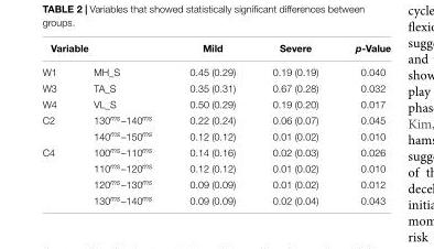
<table><thead><tr><td colspan="2">Variable</td><td rowspan="2">Mild 0.45 (0.29)</td><td rowspan="2">Severe 0.19 (0.19)</td><td rowspan="2">p-Value 0.040</td></tr><tr><td>W1</td><td>MH_S</td></tr></thead><tbody><tr><td>W3</td><td>TA_S</td><td>0.35 (0.31)</td><td>0.67 (0.28)</td><td>0.032</td></tr><tr><td>W4</td><td>VL_S</td><td>0.50 (0.29)</td><td>0.19 (0.20)</td><td>0.017</td></tr><tr><td rowspan="2">C2</td><td>130<sup>ms</sup>–140<sup>ms</sup></td><td>0.22 (0.24)</td><td>0.06 (0.07)</td><td>0.045</td></tr><tr><td>140<sup>ms</sup>–150<sup>ms</sup></td><td>0.12 (0.12)</td><td>0.01 (0.02)</td><td>0.010</td></tr><tr><td rowspan="4">C4</td><td>100<sup>ms</sup>–110<sup>ms</sup></td><td>0.14 (0.16)</td><td>0.02 (0.03)</td><td>0.026</td></tr><tr><td>110<sup>ms</sup>–120<sup>ms</sup></td><td>0.12 (0.12)</td><td>0.01 (0.02)</td><td>0.010</td></tr><tr><td>120<sup>ms</sup>–130<sup>ms</sup></td><td>0.09 (0.09)</td><td>0.01 (0.02)</td><td>0.012</td></tr><tr><td>130<sup>ms</sup>–140<sup>ms</sup></td><td>0.09 (0.09)</td><td>0.02 (0.04)</td><td>0.043</td></tr></tbody></table>